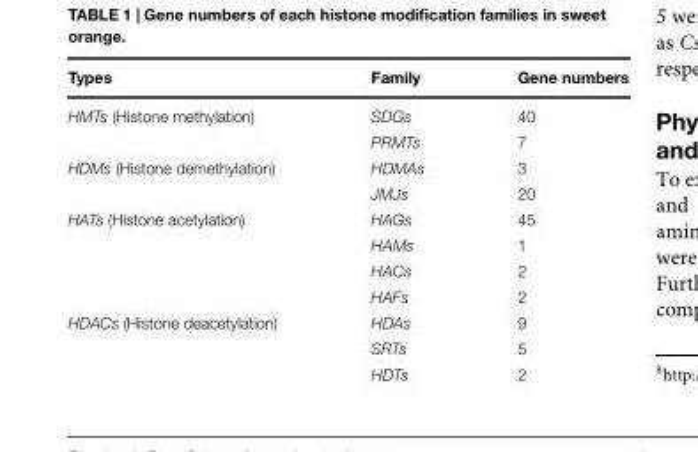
<table><thead><tr><td>Types</td><td>Family</td><td>Gene numbers</td></tr></thead><tbody><tr><td rowspan="2">HMTs (Histone methylation)</td><td>SDGs</td><td>40</td></tr><tr><td>PRMTs</td><td>7</td></tr><tr><td rowspan="2">HDMs (Histone demethylation)</td><td>HDMAs</td><td>3</td></tr><tr><td>JMJs</td><td>20</td></tr><tr><td rowspan="4">HATs (Histone acetylation)</td><td>HAGs</td><td>45</td></tr><tr><td>HAMs</td><td>1</td></tr><tr><td>HACs</td><td>2</td></tr><tr><td>HAFs</td><td>2</td></tr><tr><td rowspan="3">HDACs (Histone deacetylation)</td><td>HDAs</td><td>9</td></tr><tr><td>SRTs</td><td>5</td></tr><tr><td>HDTs</td><td>2</td></tr></tbody></table>